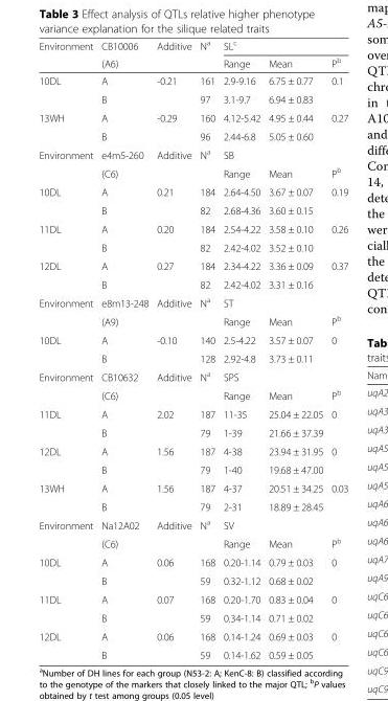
<table><thead><tr><td rowspan="2">Environment</td><td rowspan="2">CB10006 (A6)</td><td rowspan="2">Additive</td><td rowspan="2">N<sup>a</sup></td><td colspan="3">SL<sup>c</sup></td></tr><tr><td>Range</td><td>Mean</td><td>P<sup>b</sup></td></tr></thead><tbody><tr><td rowspan="2">10DL</td><td>A</td><td rowspan="2">-0.21</td><td>161</td><td>2.9-9.16</td><td>6.75 ± 0.77</td><td>0.1</td></tr><tr><td>B</td><td>97</td><td>3.1-9.7</td><td>6.94 ± 0.83</td><td></td></tr><tr><td rowspan="2">13WH</td><td>A</td><td rowspan="2">-0.29</td><td>160</td><td>4.12-5.42</td><td>4.95 ± 0.44</td><td>0.27</td></tr><tr><td>B</td><td>96</td><td>2.44-6.8</td><td>5.05 ± 0.60</td><td></td></tr><tr><td rowspan="2">Environment</td><td>e4m5-260</td><td rowspan="2">Additive</td><td rowspan="2">N<sup>a</sup></td><td colspan="3">SB</td></tr><tr><td>(C6)</td><td>Range</td><td>Mean</td><td>P<sup>b</sup></td></tr><tr><td rowspan="2">10DL</td><td>A</td><td rowspan="2">0.21</td><td>184</td><td>2.64-4.50</td><td>3.67 ± 0.07</td><td>0.19</td></tr><tr><td>B</td><td>82</td><td>2.68-4.36</td><td>3.60 ± 0.15</td><td></td></tr><tr><td rowspan="2">11DL</td><td>A</td><td rowspan="2">0.20</td><td>184</td><td>2.54-4.22</td><td>3.58 ± 0.10</td><td>0.26</td></tr><tr><td>B</td><td>82</td><td>2.42-4.02</td><td>3.52 ± 0.10</td><td></td></tr><tr><td rowspan="2">12DL</td><td>A</td><td rowspan="2">0.27</td><td>184</td><td>2.34-4.22</td><td>3.36 ± 0.09</td><td>0.37</td></tr><tr><td>B</td><td>82</td><td>2.42-4.02</td><td>3.31 ± 0.16</td><td></td></tr><tr><td rowspan="2">Environment</td><td>e8m13-248</td><td rowspan="2">Additive</td><td rowspan="2">N<sup>a</sup></td><td colspan="3">ST</td></tr><tr><td>(A9)</td><td>Range</td><td>Mean</td><td>P<sup>b</sup></td></tr><tr><td rowspan="2">10DL</td><td>A</td><td rowspan="2">-0.10</td><td>140</td><td>2.5-4.22</td><td>3.57 ± 0.07</td><td>0</td></tr><tr><td>B</td><td>128</td><td>2.92-4.8</td><td>3.73 ± 0.11</td><td></td></tr><tr><td rowspan="2">Environment</td><td>CB10632</td><td rowspan="2">Additive</td><td rowspan="2">N<sup>a</sup></td><td colspan="3">SPS</td></tr><tr><td>(C6)</td><td>Range</td><td>Mean</td><td>P<sup>b</sup></td></tr><tr><td rowspan="2">11DL</td><td>A</td><td rowspan="2">2.02</td><td>187</td><td>11-35</td><td>25.04 ± 22.05</td><td>0</td></tr><tr><td>B</td><td>79</td><td>1-39</td><td>21.66 ± 37.39</td><td></td></tr><tr><td rowspan="2">12DL</td><td>A</td><td rowspan="2">1.56</td><td>187</td><td>4-38</td><td>23.94 ± 31.95</td><td>0</td></tr><tr><td>B</td><td>79</td><td>1-40</td><td>19.68 ± 47.00</td><td></td></tr><tr><td rowspan="2">13WH</td><td>A</td><td rowspan="2">1.56</td><td>187</td><td>4-37</td><td>20.51 ± 34.25</td><td>0.03</td></tr><tr><td>B</td><td>79</td><td>2-31</td><td>18.89 ± 28.45</td><td></td></tr><tr><td rowspan="2">Environment</td><td>Na12A02</td><td rowspan="2">Additive</td><td rowspan="2">N<sup>a</sup></td><td colspan="3">SV</td></tr><tr><td>(C6)</td><td>Range</td><td>Mean</td><td>P<sup>b</sup></td></tr><tr><td rowspan="2">10DL</td><td>A</td><td rowspan="2">0.06</td><td>168</td><td>0.20-1.14</td><td>0.79 ± 0.03</td><td>0</td></tr><tr><td>B</td><td>59</td><td>0.32-1.12</td><td>0.68 ± 0.02</td><td></td></tr><tr><td rowspan="2">11DL</td><td>A</td><td rowspan="2">0.07</td><td>168</td><td>0.20-1.70</td><td>0.83 ± 0.04</td><td>0</td></tr><tr><td>B</td><td>59</td><td>0.34-1.14</td><td>0.71 ± 0.02</td><td></td></tr><tr><td rowspan="2">12DL</td><td>A</td><td rowspan="2">0.06</td><td>168</td><td>0.14-1.24</td><td>0.69 ± 0.03</td><td>0</td></tr><tr><td>B</td><td>59</td><td>0.14-1.62</td><td>0.59 ± 0.05</td><td></td></tr></tbody></table>